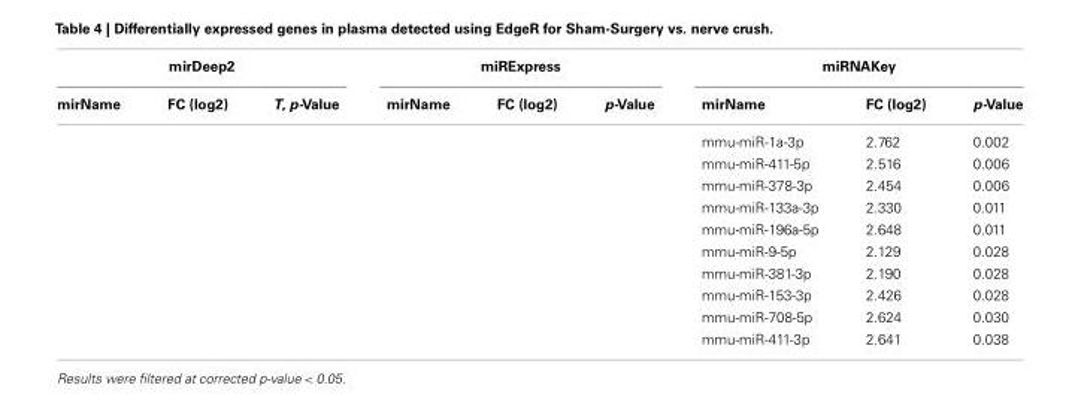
<table><thead><tr><td colspan="3">mirDeep2</td><td colspan="3">miRExpress</td><td colspan="3">miRNAKey</td></tr><tr><td>mirName</td><td>FC (log2)</td><td>T, p-Value</td><td>mirName</td><td>FC (log2)</td><td>p-Value</td><td>mirName</td><td>FC (log2)</td><td>p-Value</td></tr></thead><tbody><tr><td></td><td></td><td></td><td></td><td></td><td></td><td>mmu-miR-1a-3p</td><td>2.762</td><td>0.002</td></tr><tr><td></td><td></td><td></td><td></td><td></td><td></td><td>mmu-miR-411-5p</td><td>2.516</td><td>0.006</td></tr><tr><td></td><td></td><td></td><td></td><td></td><td></td><td>mmu-miR-378-3p</td><td>2.454</td><td>0.006</td></tr><tr><td></td><td></td><td></td><td></td><td></td><td></td><td>mmu-miR-133a-3p</td><td>2.330</td><td>0.011</td></tr><tr><td></td><td></td><td></td><td></td><td></td><td></td><td>mmu-miR-196a-5p</td><td>2.648</td><td>0.011</td></tr><tr><td></td><td></td><td></td><td></td><td></td><td></td><td>mmu-miR-9-5p</td><td>2.129</td><td>0.028</td></tr><tr><td></td><td></td><td></td><td></td><td></td><td></td><td>mmu-miR-381-3p</td><td>2.190</td><td>0.028</td></tr><tr><td></td><td></td><td></td><td></td><td></td><td></td><td>mmu-miR-153-3p</td><td>2.426</td><td>0.028</td></tr><tr><td></td><td></td><td></td><td></td><td></td><td></td><td>mmu-miR-708-5p</td><td>2.624</td><td>0.030</td></tr><tr><td></td><td></td><td></td><td></td><td></td><td></td><td>mmu-miR-411-3p</td><td>2.641</td><td>0.038</td></tr></tbody></table>